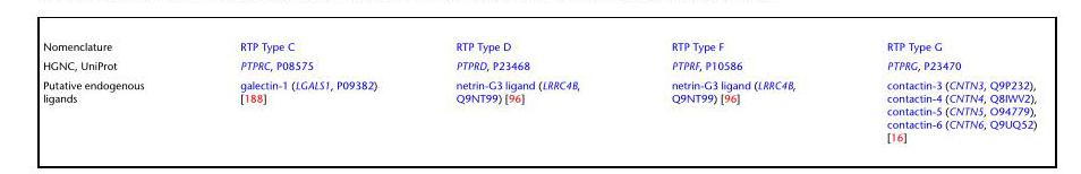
<table><tbody><tr><td>Nomenclature</td><td>RTP Type C</td><td>RTP Type D</td><td>RTP Type F</td><td>RTP Type G</td></tr><tr><td>HGNC, UniProt</td><td>PTPRC, P08575</td><td>PTPRD, P23468</td><td>PTPRF, P10586</td><td>PTPRG, P23470</td></tr><tr><td>Putative endogenous ligands</td><td>galectin-1 (LGALS1, P09382) [188]</td><td>netrin-G3 ligand (LRRC4B, Q9NT99) [96]</td><td>netrin-G3 ligand (LRRC4B, Q9NT99) [96]</td><td>contactin-3 (CNTN3, Q9P232), contactin-4 (CNTN4, Q8IWV2), contactin-5 (CNTN5, O94779), contactin-6 (CNTN6, Q9UQ52)</td></tr></tbody></table>